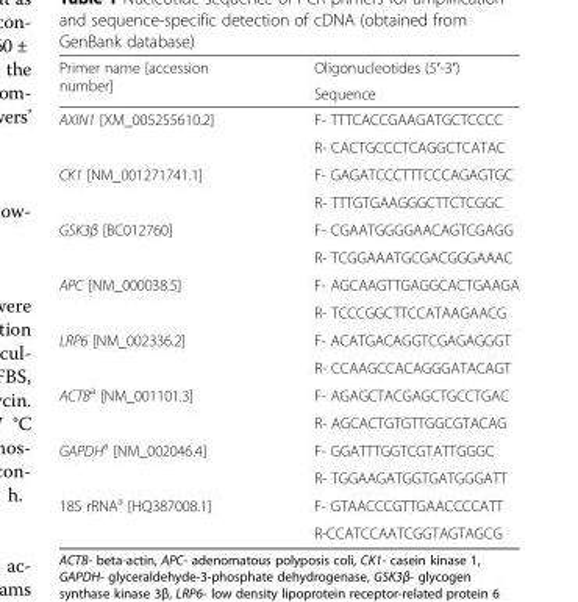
<table><thead><tr><td rowspan="2">Primer name [accession number]</td><td rowspan="2">Oligonucleotides (5′-3′) Sequence</td></tr><tr></tr></thead><tbody><tr><td rowspan="2">AXIN1 [XM_005255610.2]</td><td>F- TTTCACCGAAGATGCTCCCC</td></tr><tr><td>R- CACTGCCCTCAGGCTCATAC</td></tr><tr><td rowspan="2">CK1 [NM_001271741.1]</td><td>F- GAGATCCCTTTCCCAGAGTGC</td></tr><tr><td>R- TTTGTGAAGGGCTTCTCGGC</td></tr><tr><td rowspan="2">GSK3β [BC012760]</td><td>F- CGAATGGGGAACAGTCGAGG</td></tr><tr><td>R- TCGGAAATGCGACGGGAAAC</td></tr><tr><td rowspan="2">APC [NM_000038.5]</td><td>F- AGCAAGTTGAGGCACTGAAGA</td></tr><tr><td>R- TCCCGGCTTCCATAAGAACG</td></tr><tr><td rowspan="2">LRP6 [NM_002336.2]</td><td>F- ACATGACAGGTCGAGAGGGT</td></tr><tr><td>R- CCAAGCCACAGGGATACAGT</td></tr><tr><td rowspan="2">ACTB<sup>a</sup> [NM_001101.3]</td><td>F- AGAGCTACGAGCTGCCTGAC</td></tr><tr><td>R- AGCACTGTGTTGGCGTACAG</td></tr><tr><td rowspan="2">GAPDH<sup>a</sup> [NM_002046.4]</td><td>F- GGATTTGGTCGTATTGGGC</td></tr><tr><td>R- TGGAAGATGGTGATGGGATT</td></tr><tr><td rowspan="2">18S rRNA<sup>a</sup> [HQ387008.1]</td><td>F- GTAACCCGTTGAACCCCATT</td></tr><tr><td>R-CCATCCAATCGGTAGTAGCG</td></tr></tbody></table>